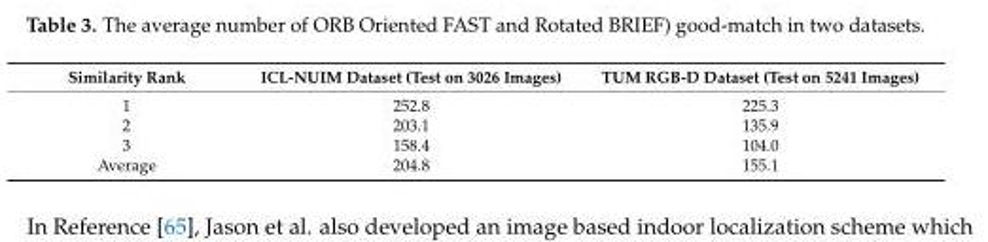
<table><thead><tr><td>Similarity Rank</td><td>ICL-NUIM Dataset (Test on 3026 Images)</td><td>TUM RGB-D Dataset (Test on 5241 Images)</td></tr></thead><tbody><tr><td>1</td><td>252.8</td><td>225.3</td></tr><tr><td>2</td><td>203.1</td><td>135.9</td></tr><tr><td>3</td><td>158.4</td><td>104.0</td></tr><tr><td>Average</td><td>204.8</td><td>155.1</td></tr></tbody></table>